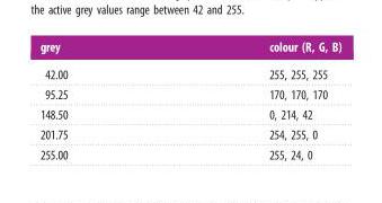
<table><thead><tr><td>grey</td><td>colour (R, G, B)</td></tr></thead><tbody><tr><td>42.00</td><td>255, 255, 255</td></tr><tr><td>95.25</td><td>170, 170, 170</td></tr><tr><td>148.50</td><td>0, 214, 42</td></tr><tr><td>201.75</td><td>254, 255, 0</td></tr><tr><td>255.00</td><td>255, 24, 0</td></tr></tbody></table>